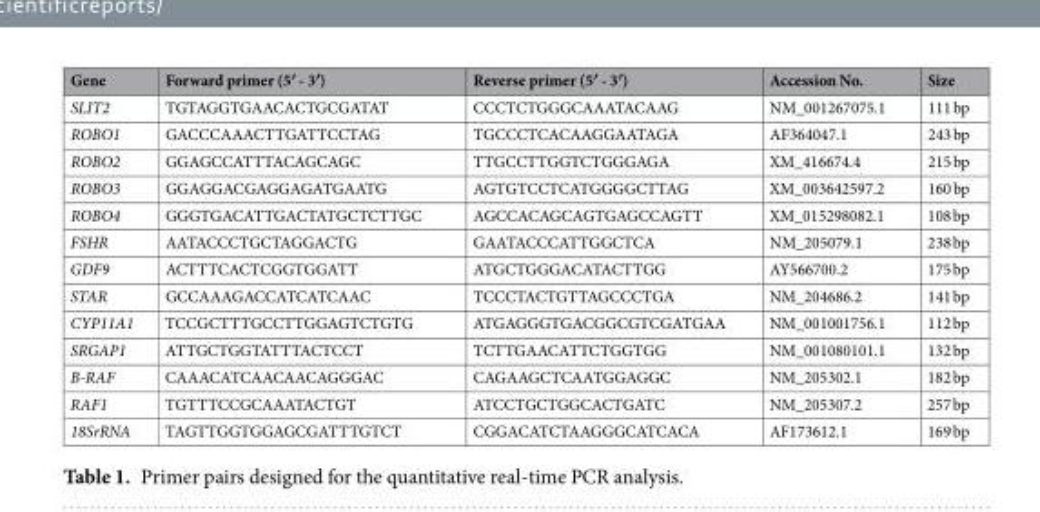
<table><thead><tr><td>Gene</td><td>Forward primer (5′ - 3′)</td><td>Reverse primer (5′ - 3′)</td><td>Accession No.</td><td>Size</td></tr></thead><tbody><tr><td>SLIT2</td><td>TGTAGGTGAACACTGCGATAT</td><td>CCCTCTGGGCAAATACAAG</td><td>NM_001267075.1</td><td>111 bp</td></tr><tr><td>ROBO1</td><td>GACCCAAACTTGATTCCTAG</td><td>TGCCCTCACAAGGAATAGA</td><td>AF364047.1</td><td>243 bp</td></tr><tr><td>ROBO2</td><td>GGAGCCATTTACAGCAGC</td><td>TTGCCTTGGTCTGGGAGA</td><td>XM_416674.4</td><td>215 bp</td></tr><tr><td>ROBO3</td><td>GGAGGACGAGGAGATGAATG</td><td>AGTGTCCTCATGGGGCTTAG</td><td>XM_003642597.2</td><td>160 bp</td></tr><tr><td>ROBO4</td><td>GGGTGACATTGACTATGCTCTTGC</td><td>AGCCACAGCAGTGAGCCAGTT</td><td>XM_015298082.1</td><td>108 bp</td></tr><tr><td>FSHR</td><td>AATACCCTGCTAGGACTG</td><td>GAATACCCATTGGCTCA</td><td>NM_205079.1</td><td>238 bp</td></tr><tr><td>GDF9</td><td>ACTTTCACTCGGTGGATT</td><td>ATGCTGGGACATACTTGG</td><td>AY566700.2</td><td>175 bp</td></tr><tr><td>STAR</td><td>GCCAAAGACCATCATCAAC</td><td>TCCCTACTGTTAGCCCTGA</td><td>NM_204686.2</td><td>141 bp</td></tr><tr><td>CYP11A1</td><td>TCCGCTTTGCCTTGGAGTCTGTG</td><td>ATGAGGGTGACGGCGTCGATGAA</td><td>NM_001001756.1</td><td>112 bp</td></tr><tr><td>SRGAP1</td><td>ATTGCTGGTATTTACTCCT</td><td>TCTTGAACATTCTGGTGG</td><td>NM_001080101.1</td><td>132 bp</td></tr><tr><td>B-RAF</td><td>CAAACATCAACAACAGGGAC</td><td>CAGAAGCTCAATGGAGGC</td><td>NM_205302.1</td><td>182 bp</td></tr><tr><td>RAF1</td><td>TGTTTCCGCAAATACTGT</td><td>ATCCTGCTGGCACTGATC</td><td>NM_205307.2</td><td>257 bp</td></tr><tr><td>18SrRNA</td><td>TAGTTGGTGGAGCGATTTGTCT</td><td>CGGACATCTAAGGGCATCACA</td><td>AF173612.1</td><td>169 bp</td></tr></tbody></table>